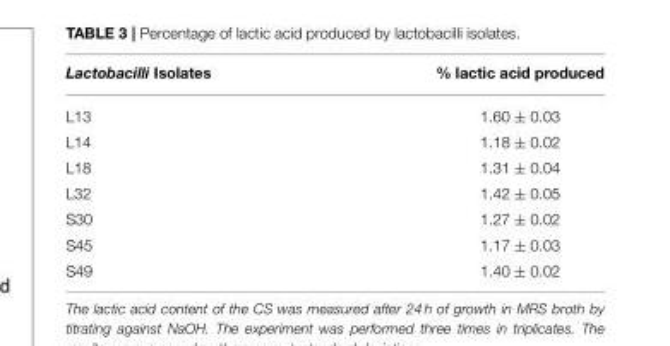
<table><thead><tr><td>Lactobacilli Isolates</td><td>% lactic acid produced</td></tr></thead><tbody><tr><td>L13</td><td>1.60 ± 0.03</td></tr><tr><td>L14</td><td>1.18 ± 0.02</td></tr><tr><td>L18</td><td>1.31 ± 0.04</td></tr><tr><td>L32</td><td>1.42 ± 0.05</td></tr><tr><td>S30</td><td>1.27 ± 0.02</td></tr><tr><td>S45</td><td>1.17 ± 0.03</td></tr><tr><td>S49</td><td>1.40 ± 0.02</td></tr></tbody></table>